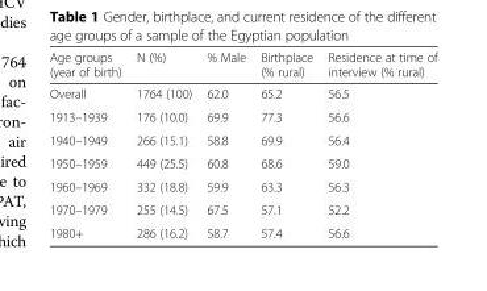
<table><thead><tr><td>Age groups (year of birth)</td><td>N (%)</td><td>% Male</td><td>Birthplace (% rural)</td><td>Residence at time of interview (% rural)</td></tr></thead><tbody><tr><td>Overall</td><td>1764 (100)</td><td>62.0</td><td>65.2</td><td>56.5</td></tr><tr><td>1913–1939</td><td>176 (10.0)</td><td>69.9</td><td>77.3</td><td>56.6</td></tr><tr><td>1940–1949</td><td>266 (15.1)</td><td>58.8</td><td>69.9</td><td>56.4</td></tr><tr><td>1950–1959</td><td>449 (25.5)</td><td>60.8</td><td>68.6</td><td>59.0</td></tr><tr><td>1960–1969</td><td>332 (18.8)</td><td>59.9</td><td>63.3</td><td>56.3</td></tr><tr><td>1970–1979</td><td>255 (14.5)</td><td>67.5</td><td>57.1</td><td>52.2</td></tr><tr><td>1980+</td><td>286 (16.2)</td><td>58.7</td><td>57.4</td><td>56.6</td></tr></tbody></table>